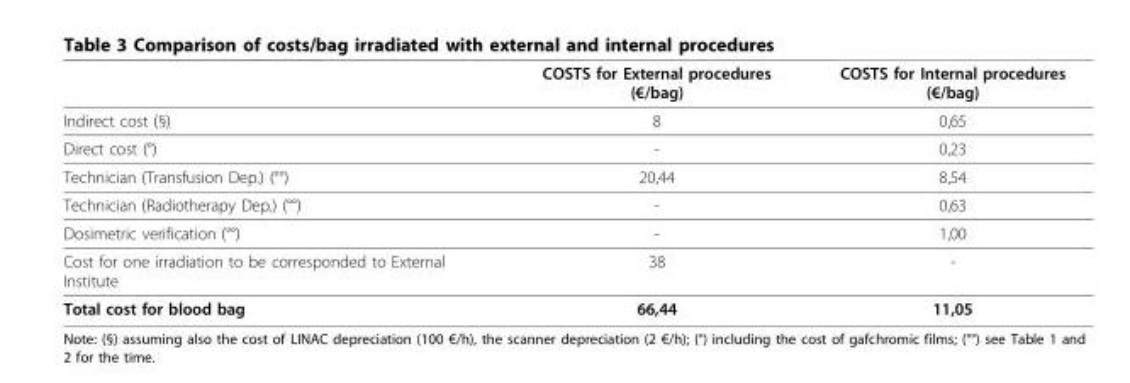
<table><thead><tr><td></td><td>COSTS for External procedures (€/bag)</td><td>COSTS for Internal procedures (€/bag)</td></tr></thead><tbody><tr><td>Indirect cost (§)</td><td>8</td><td>0,65</td></tr><tr><td>Direct cost (°)</td><td>-</td><td>0,23</td></tr><tr><td>Technician (Transfusion Dep.) (°°)</td><td>20,44</td><td>8,54</td></tr><tr><td>Technician (Radiotherapy Dep.) (°°)</td><td>-</td><td>0,63</td></tr><tr><td>Dosimetric verification (°°)</td><td>-</td><td>1,00</td></tr><tr><td>Cost for one irradiation to be corresponded to External Institute</td><td>38</td><td>-</td></tr><tr><td>Total cost for blood bag</td><td>66,44</td><td>11,05</td></tr></tbody></table>